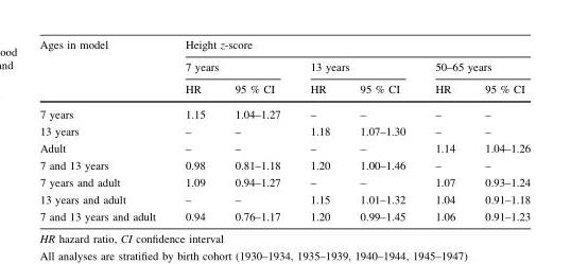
<table><thead><tr><td rowspan="3">Ages in model</td><td colspan="6">Height z-score</td></tr><tr><td colspan="2">7 years</td><td colspan="2">13 years</td><td colspan="2">50–65 years</td></tr><tr><td>HR</td><td>95 % CI</td><td>HR</td><td>95 % CI</td><td>HR</td><td>95 % CI</td></tr></thead><tbody><tr><td>7 years</td><td>1.15</td><td>1.04–1.27</td><td>–</td><td>–</td><td>–</td><td>–</td></tr><tr><td>13 years</td><td>–</td><td>–</td><td>1.18</td><td>1.07–1.30</td><td>–</td><td>–</td></tr><tr><td>Adult</td><td>–</td><td>–</td><td>–</td><td>–</td><td>1.14</td><td>1.04–1.26</td></tr><tr><td>7 and 13 years</td><td>0.98</td><td>0.81–1.18</td><td>1.20</td><td>1.00–1.46</td><td>–</td><td>–</td></tr><tr><td>7 years and adult</td><td>1.09</td><td>0.94–1.27</td><td>–</td><td>–</td><td>1.07</td><td>0.93–1.24</td></tr><tr><td>13 years and adult</td><td>–</td><td>–</td><td>1.15</td><td>1.01–1.32</td><td>1.04</td><td>0.91–1.18</td></tr><tr><td>7 and 13 years and adult</td><td>0.94</td><td>0.76–1.17</td><td>1.20</td><td>0.99–1.45</td><td>1.06</td><td>0.91–1.23</td></tr></tbody></table>